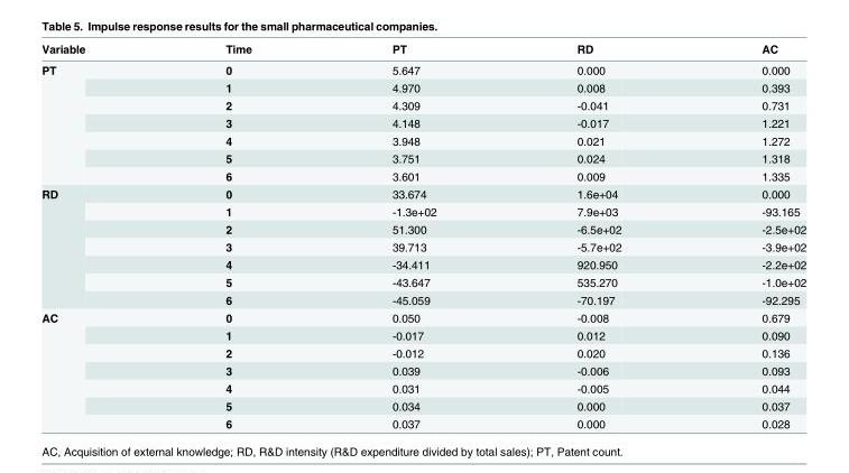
<table><thead><tr><td>Variable</td><td>Time</td><td>PT</td><td>RD</td><td>AC</td></tr></thead><tbody><tr><td rowspan="7">PT</td><td>0</td><td>5.647</td><td>0.000</td><td>0.000</td></tr><tr><td>1</td><td>4.970</td><td>0.008</td><td>0.393</td></tr><tr><td>2</td><td>4.309</td><td>-0.041</td><td>0.731</td></tr><tr><td>3</td><td>4.148</td><td>-0.017</td><td>1.221</td></tr><tr><td>4</td><td>3.948</td><td>0.021</td><td>1.272</td></tr><tr><td>5</td><td>3.751</td><td>0.024</td><td>1.318</td></tr><tr><td>6</td><td>3.601</td><td>0.009</td><td>1.335</td></tr><tr><td rowspan="7">RD</td><td>0</td><td>33.674</td><td>1.6e+04</td><td>0.000</td></tr><tr><td>1</td><td>-1.3e+02</td><td>7.9e+03</td><td>-93.165</td></tr><tr><td>2</td><td>51.300</td><td>-6.5e+02</td><td>-2.5e+02</td></tr><tr><td>3</td><td>39.713</td><td>-5.7e+02</td><td>-3.9e+02</td></tr><tr><td>4</td><td>-34.411</td><td>920.950</td><td>-2.2e+02</td></tr><tr><td>5</td><td>-43.647</td><td>535.270</td><td>-1.0e+02</td></tr><tr><td>6</td><td>-45.059</td><td>-70.197</td><td>-92.295</td></tr><tr><td rowspan="7">AC</td><td>0</td><td>0.050</td><td>-0.008</td><td>0.679</td></tr><tr><td>1</td><td>-0.017</td><td>0.012</td><td>0.090</td></tr><tr><td>2</td><td>-0.012</td><td>0.020</td><td>0.136</td></tr><tr><td>3</td><td>0.039</td><td>-0.006</td><td>0.093</td></tr><tr><td>4</td><td>0.031</td><td>-0.005</td><td>0.044</td></tr><tr><td>5</td><td>0.034</td><td>0.000</td><td>0.037</td></tr><tr><td>6</td><td>0.037</td><td>0.000</td><td>0.028</td></tr></tbody></table>